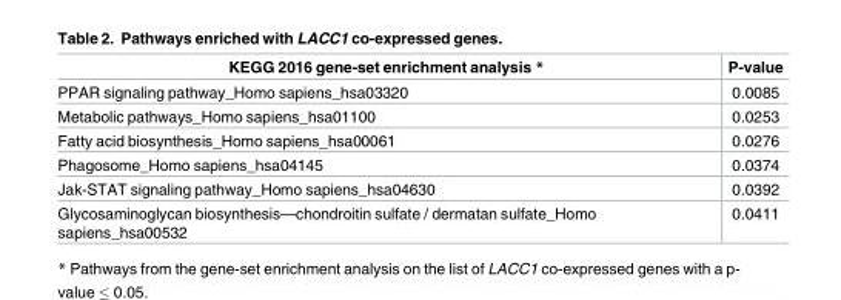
<table><thead><tr><td>KEGG 2016 gene-set enrichment analysis *</td><td>P-value</td></tr></thead><tbody><tr><td>PPAR signaling pathway_Homo sapiens_hsa03320</td><td>0.0085</td></tr><tr><td>Metabolic pathways_Homo sapiens_hsa01100</td><td>0.0253</td></tr><tr><td>Fatty acid biosynthesis_Homo sapiens_hsa00061</td><td>0.0276</td></tr><tr><td>Phagosome_Homo sapiens_hsa04145</td><td>0.0374</td></tr><tr><td>Jak-STAT signaling pathway_Homo sapiens_hsa04630</td><td>0.0392</td></tr><tr><td>Glycosaminoglycan biosynthesis—chondroitin sulfate / dermatan sulfate_Homo sapiens_hsa00532</td><td>0.0411</td></tr></tbody></table>